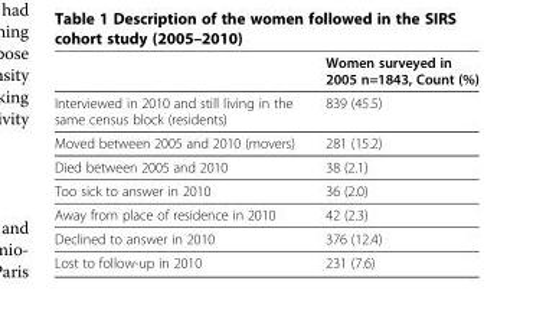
<table><thead><tr><td></td><td>Women surveyed in 2005 n=1843, Count (%)</td></tr></thead><tbody><tr><td>Interviewed in 2010 and still living in the same census block (residents)</td><td>839 (45.5)</td></tr><tr><td>Moved between 2005 and 2010 (movers)</td><td>281 (15.2)</td></tr><tr><td>Died between 2005 and 2010</td><td>38 (2.1)</td></tr><tr><td>Too sick to answer in 2010</td><td>36 (2.0)</td></tr><tr><td>Away from place of residence in 2010</td><td>42 (2.3)</td></tr><tr><td>Declined to answer in 2010</td><td>376 (12.4)</td></tr><tr><td>Lost to follow-up in 2010</td><td>231 (7.6)</td></tr></tbody></table>